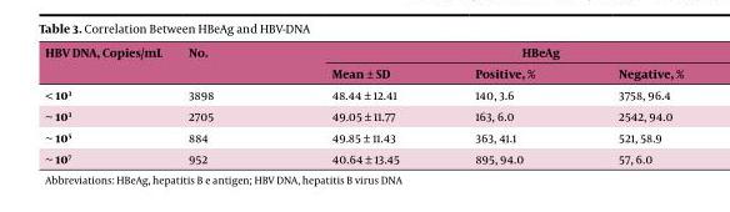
<table><thead><tr><td rowspan="2">HBV DNA, Copies/mL</td><td rowspan="2">No.</td><td colspan="3">HBeAg</td></tr><tr><td>Mean ± SD</td><td>Positive, %</td><td>Negative, %</td></tr></thead><tbody><tr><td>&lt; 10<sup>3</sup></td><td>3898</td><td>48.44 ± 12.41</td><td>140, 3.6</td><td>3758, 96.4</td></tr><tr><td>~ 10<sup>3</sup></td><td>2705</td><td>49.05 ± 11.77</td><td>163, 6.0</td><td>2542, 94.0</td></tr><tr><td>~ 10<sup>5</sup></td><td>884</td><td>49.85 ± 11.43</td><td>363, 41.1</td><td>521, 58.9</td></tr><tr><td>~ 10<sup>7</sup></td><td>952</td><td>40.64 ± 13.45</td><td>895, 94.0</td><td>57, 6.0</td></tr></tbody></table>